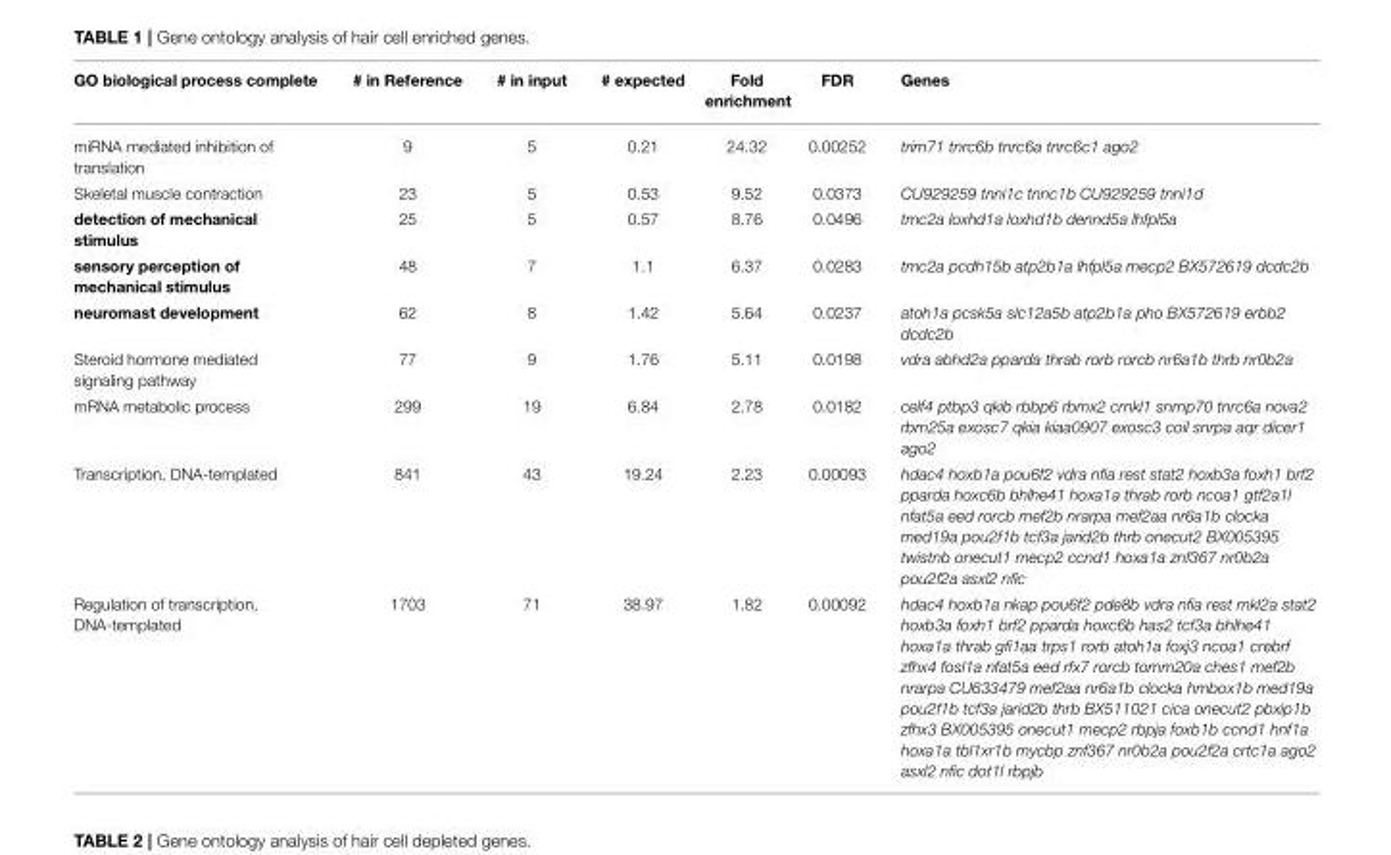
<table><thead><tr><td>GO biological process complete</td><td># in Reference</td><td># in input</td><td># expected</td><td>Fold enrichment</td><td>FDR</td><td>Genes</td></tr></thead><tbody><tr><td>miRNA mediated inhibition of translation</td><td>9</td><td>5</td><td>0.21</td><td>24.32</td><td>0.00252</td><td>trim71 tnrc6b tnrc6a tnrc6c1 ago2</td></tr><tr><td>Skeletal muscle contraction</td><td>23</td><td>5</td><td>0.53</td><td>9.52</td><td>0.0373</td><td>CU929259 tnni1c tnnc1b CU929259 tnni1d</td></tr><tr><td>detection of mechanical stimulus</td><td>25</td><td>5</td><td>0.57</td><td>8.76</td><td>0.0496</td><td>tmc2a loxhd1a loxhd1b dennd5a lhfpl5a</td></tr><tr><td>sensory perception of mechanical stimulus</td><td>48</td><td>7</td><td>1.1</td><td>6.37</td><td>0.0283</td><td>tmc2a pcdh15b atp2b1a lhfpl5a mecp2 BX572619 dcdc2b</td></tr><tr><td>neuromast development</td><td>62</td><td>8</td><td>1.42</td><td>5.64</td><td>0.0237</td><td>atoh1a pcsk5a slc12a5b atp2b1a pho BX572619 erbb2 dcdc2b</td></tr><tr><td>Steroid hormone mediated signaling pathway</td><td>77</td><td>9</td><td>1.76</td><td>5.11</td><td>0.0198</td><td>vdra abhd2a pparda thrab rorb rorcb nr6a1b thrb nr0b2a</td></tr><tr><td>mRNA metabolic process</td><td>299</td><td>19</td><td>6.84</td><td>2.78</td><td>0.0182</td><td>celf4 ptbp3 qkib rbbp6 rbmx2 crnkl1 snrnp70 tnrc6a nova2 rbm25a exosc7 qkia kiaa0907 exosc3 coil snrpa aqr dicer1 ago2</td></tr><tr><td>Transcription, DNA-templated</td><td>841</td><td>43</td><td>19.24</td><td>2.23</td><td>0.00093</td><td>hdac4 hoxb1a pou6f2 vdra nfia rest stat2 hoxb3a foxh1 brf2 pparda hoxc6b bhlhe41 hoxa1a thrab rorb ncoa1 gtf2a1l nfat5a eed rorcb mef2b nrarpa mef2aa nr6a1b clocka med19a pou2f1b tcf3a jarid2b thrb onecut2 BX005395 twistnb onecut1 mecp2 ccnd1 hoxa1a znf367 nr0b2a pou2f2a asxl2 nfic</td></tr><tr><td>Regulation of transcription, DNA-templated</td><td>1703</td><td>71</td><td>38.97</td><td>1.82</td><td>0.00092</td><td>hdac4 hoxb1a nkap pou6f2 pde8b vdra nfia rest mkl2a stat2 hoxb3a foxh1 brf2 pparda hoxc6b has2 tcf3a bhlhe41 hoxa1a thrab gfi1aa trps1 rorb atoh1a foxj3 ncoa1 crebrf zfhx4 fosl1a nfat5a eed rfx7 rorcb tomm20a ches1 mef2b nrarpa CU633479 mef2aa nr6a1b clocka hmbox1b med19a pou2f1b tcf3a jarid2b thrb BX511021 cica onecut2 pbxip1b zfhx3 BX005395 onecut1 mecp2 rbpja foxb1b ccnd1 hnf1a hoxa1a tbl1xr1b mycbp znf367 nr0b2a pou2f2a crtc1a ago2 asxl2 nfic dot1l rbpjb</td></tr></tbody></table>